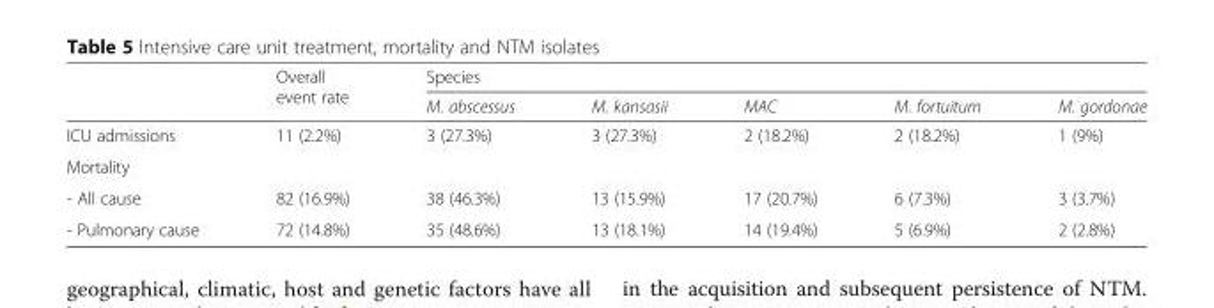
<table><thead><tr><td rowspan="2"></td><td rowspan="2">Overall event rate</td><td colspan="5">Species</td></tr><tr><td>M. abscessus</td><td>M. kansasii</td><td>MAC</td><td>M. fortuitum</td><td>M. gordonae</td></tr></thead><tbody><tr><td>ICU admissions</td><td>11 (2.2%)</td><td>3 (27.3%)</td><td>3 (27.3%)</td><td>2 (18.2%)</td><td>2 (18.2%)</td><td>1 (9%)</td></tr><tr><td colspan="7">Mortality</td></tr><tr><td>- All cause</td><td>82 (16.9%)</td><td>38 (46.3%)</td><td>13 (15.9%)</td><td>17 (20.7%)</td><td>6 (7.3%)</td><td>3 (3.7%)</td></tr><tr><td>- Pulmonary cause</td><td>72 (14.8%)</td><td>35 (48.6%)</td><td>13 (18.1%)</td><td>14 (19.4%)</td><td>5 (6.9%)</td><td>2 (2.8%)</td></tr></tbody></table>